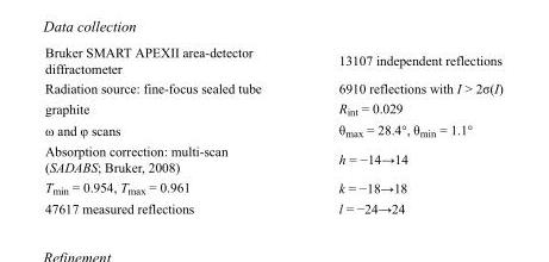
<table><tbody><tr><td>Bruker SMART APEXII area-detector diffractometer</td><td>13107 independent reflections</td></tr><tr><td>Radiation source: fine-focus sealed tube</td><td>6910 reflections with I &gt; 2σ(I)</td></tr><tr><td>graphite</td><td>R<sub>int</sub> = 0.029</td></tr><tr><td>ω and φ scans</td><td>θ<sub>max</sub> = 28.4°, θ<sub>min</sub> = 1.1°</td></tr><tr><td>Absorption correction: multi-scan (SADABS; Bruker, 2008)</td><td>h = −14→14</td></tr><tr><td>T<sub>min</sub> = 0.954, T<sub>max</sub> = 0.961</td><td>k = −18→18</td></tr><tr><td>47617 measured reflections</td><td>l = −24→24</td></tr></tbody></table>